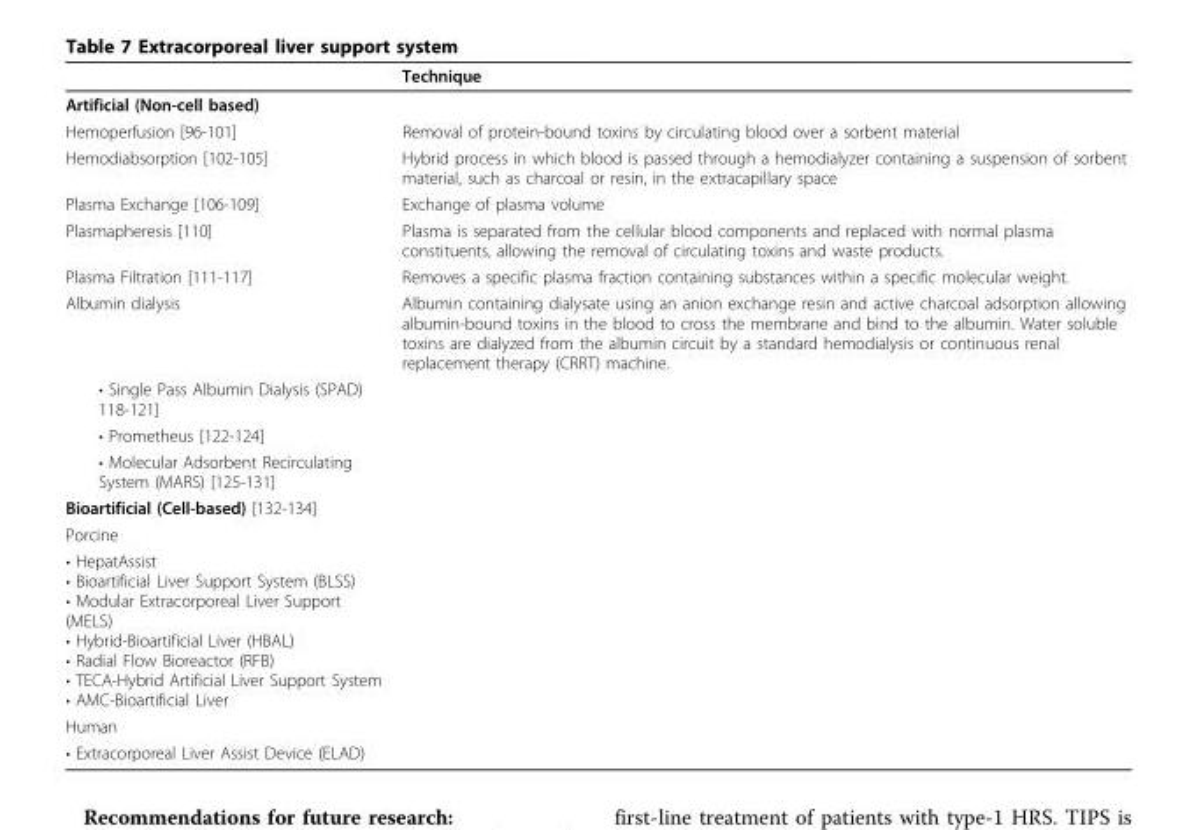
<table><thead><tr><td></td><td>Technique</td></tr></thead><tbody><tr><td colspan="2">Artificial (Non-cell based)</td></tr><tr><td>Hemoperfusion [96-101]</td><td>Removal of protein-bound toxins by circulating blood over a sorbent material</td></tr><tr><td>Hemodiabsorption [102-105]</td><td>Hybrid process in which blood is passed through a hemodialyzer containing a suspension of sorbent material, such as charcoal or resin, in the extracapillary space</td></tr><tr><td>Plasma Exchange [106-109]</td><td>Exchange of plasma volume</td></tr><tr><td>Plasmapheresis [110]</td><td>Plasma is separated from the cellular blood components and replaced with normal plasma constituents, allowing the removal of circulating toxins and waste products.</td></tr><tr><td>Plasma Filtration [111-117]</td><td>Removes a specific plasma fraction containing substances within a specific molecular weight.</td></tr><tr><td>Albumin dialysis</td><td>Albumin containing dialysate using an anion exchange resin and active charcoal adsorption allowing albumin-bound toxins in the blood to cross the membrane and bind to the albumin. Water soluble toxins are dialyzed from the albumin circuit by a standard hemodialysis or continuous renal replacement therapy (CRRT) machine.</td></tr><tr><td colspan="2">• Single Pass Albumin Dialysis (SPAD) 118-121]</td></tr><tr><td colspan="2">• Prometheus [122-124]</td></tr><tr><td colspan="2">• Molecular Adsorbent Recirculating System (MARS) [125-131]</td></tr><tr><td colspan="2">Bioartificial (Cell-based) [132-134]</td></tr><tr><td colspan="2">Porcine</td></tr><tr><td colspan="2">• HepatAssist • Bioartificial Liver Support System (BLSS) • Modular Extracorporeal Liver Support (MELS) • Hybrid-Bioartificial Liver (HBAL) • Radial Flow Bioreactor (RFB) • TECA-Hybrid Artificial Liver Support System • AMC-Bioartificial Liver</td></tr><tr><td colspan="2">Human</td></tr><tr><td>• Extracorporeal Liver Assist Device (ELAD)</td><td></td></tr></tbody></table>